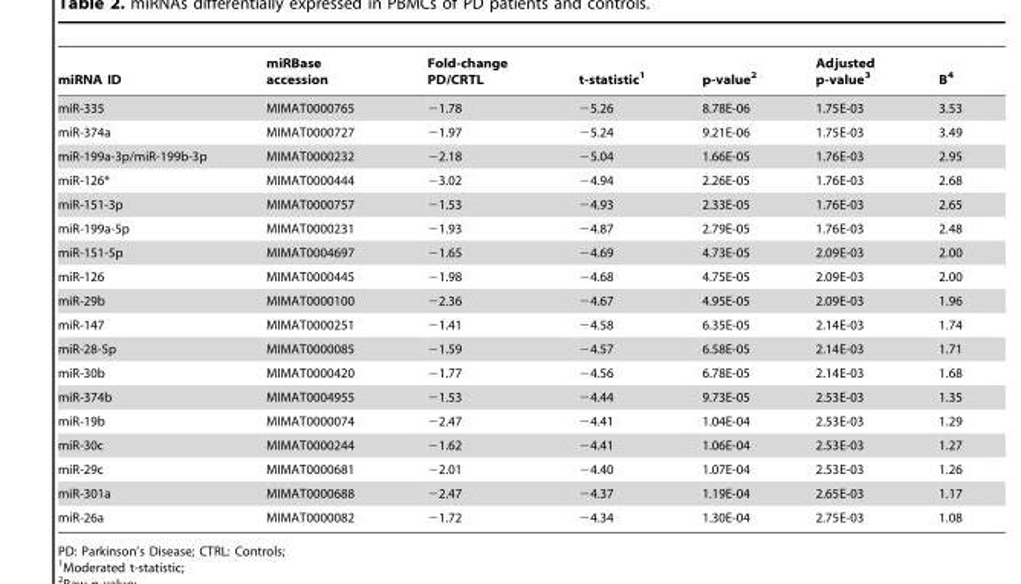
<table><thead><tr><td>miRNA ID</td><td>miRBase accession</td><td>Fold-change PD/CRTL</td><td>t-statistic<sup>1</sup></td><td>p-value<sup>2</sup></td><td>Adjusted p-value<sup>3</sup></td><td>B<sup>4</sup></td></tr></thead><tbody><tr><td>miR-335</td><td>MIMAT0000765</td><td>−1.78</td><td>−5.26</td><td>8.78E-06</td><td>1.75E-03</td><td>3.53</td></tr><tr><td>miR-374a</td><td>MIMAT0000727</td><td>−1.97</td><td>−5.24</td><td>9.21E-06</td><td>1.75E-03</td><td>3.49</td></tr><tr><td>miR-199a-3p/miR-199b-3p</td><td>MIMAT0000232</td><td>−2.18</td><td>−5.04</td><td>1.66E-05</td><td>1.76E-03</td><td>2.95</td></tr><tr><td>miR-126*</td><td>MIMAT0000444</td><td>−3.02</td><td>−4.94</td><td>2.26E-05</td><td>1.76E-03</td><td>2.68</td></tr><tr><td>miR-151-3p</td><td>MIMAT0000757</td><td>−1.53</td><td>−4.93</td><td>2.33E-05</td><td>1.76E-03</td><td>2.65</td></tr><tr><td>miR-199a-5p</td><td>MIMAT0000231</td><td>−1.93</td><td>−4.87</td><td>2.79E-05</td><td>1.76E-03</td><td>2.48</td></tr><tr><td>miR-151-5p</td><td>MIMAT0004697</td><td>−1.65</td><td>−4.69</td><td>4.73E-05</td><td>2.09E-03</td><td>2.00</td></tr><tr><td>miR-126</td><td>MIMAT0000445</td><td>−1.98</td><td>−4.68</td><td>4.75E-05</td><td>2.09E-03</td><td>2.00</td></tr><tr><td>miR-29b</td><td>MIMAT0000100</td><td>−2.36</td><td>−4.67</td><td>4.95E-05</td><td>2.09E-03</td><td>1.96</td></tr><tr><td>miR-147</td><td>MIMAT0000251</td><td>−1.41</td><td>−4.58</td><td>6.35E-05</td><td>2.14E-03</td><td>1.74</td></tr><tr><td>miR-28-5p</td><td>MIMAT0000085</td><td>−1.59</td><td>−4.57</td><td>6.58E-05</td><td>2.14E-03</td><td>1.71</td></tr><tr><td>miR-30b</td><td>MIMAT0000420</td><td>−1.77</td><td>−4.56</td><td>6.78E-05</td><td>2.14E-03</td><td>1.68</td></tr><tr><td>miR-374b</td><td>MIMAT0004955</td><td>−1.53</td><td>−4.44</td><td>9.73E-05</td><td>2.53E-03</td><td>1.35</td></tr><tr><td>miR-19b</td><td>MIMAT0000074</td><td>−2.47</td><td>−4.41</td><td>1.04E-04</td><td>2.53E-03</td><td>1.29</td></tr><tr><td>miR-30c</td><td>MIMAT0000244</td><td>−1.62</td><td>−4.41</td><td>1.06E-04</td><td>2.53E-03</td><td>1.27</td></tr><tr><td>miR-29c</td><td>MIMAT0000681</td><td>−2.01</td><td>−4.40</td><td>1.07E-04</td><td>2.53E-03</td><td>1.26</td></tr><tr><td>miR-301a</td><td>MIMAT0000688</td><td>−2.47</td><td>−4.37</td><td>1.19E-04</td><td>2.65E-03</td><td>1.17</td></tr><tr><td>miR-26a</td><td>MIMAT0000082</td><td>−1.72</td><td>−4.34</td><td>1.30E-04</td><td>2.75E-03</td><td>1.08</td></tr></tbody></table>